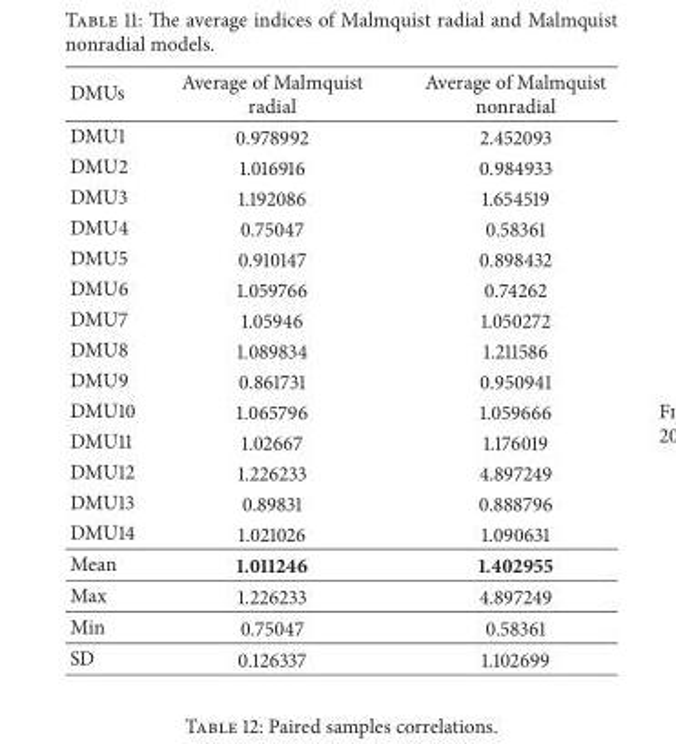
<table><thead><tr><td>DMUs</td><td>Average of Malmquist radial</td><td>Average of Malmquist nonradial</td></tr></thead><tbody><tr><td>DMU1</td><td>0.978992</td><td>2.452093</td></tr><tr><td>DMU2</td><td>1.016916</td><td>0.984933</td></tr><tr><td>DMU3</td><td>1.192086</td><td>1.654519</td></tr><tr><td>DMU4</td><td>0.75047</td><td>0.58361</td></tr><tr><td>DMU5</td><td>0.910147</td><td>0.898432</td></tr><tr><td>DMU6</td><td>1.059766</td><td>0.74262</td></tr><tr><td>DMU7</td><td>1.05946</td><td>1.050272</td></tr><tr><td>DMU8</td><td>1.089834</td><td>1.211586</td></tr><tr><td>DMU9</td><td>0.861731</td><td>0.950941</td></tr><tr><td>DMU10</td><td>1.065796</td><td>1.059666</td></tr><tr><td>DMU11</td><td>1.02667</td><td>1.176019</td></tr><tr><td>DMU12</td><td>1.226233</td><td>4.897249</td></tr><tr><td>DMU13</td><td>0.89831</td><td>0.888796</td></tr><tr><td>DMU14</td><td>1.021026</td><td>1.090631</td></tr><tr><td>Mean</td><td>1.011246</td><td>1.402955</td></tr><tr><td>Max</td><td>1.226233</td><td>4.897249</td></tr><tr><td>Min</td><td>0.75047</td><td>0.58361</td></tr><tr><td>SD</td><td>0.126337</td><td>1.102699</td></tr></tbody></table>